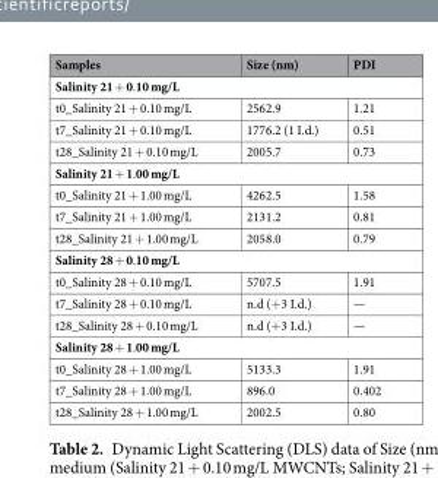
<table><thead><tr><td>Samples</td><td>Size (nm)</td><td>PDI</td></tr></thead><tbody><tr><td colspan="3">Salinity 21 + 0.10 mg/L</td></tr><tr><td>t0_Salinity 21 + 0.10 mg/L</td><td>2562.9</td><td>1.21</td></tr><tr><td>t7_Salinity 21 + 0.10 mg/L</td><td>1776.2 (1 I.d.)</td><td>0.51</td></tr><tr><td>t28_Salinity 21 + 0.10 mg/L</td><td>2005.7</td><td>0.73</td></tr><tr><td colspan="3">Salinity 21 + 1.00 mg/L</td></tr><tr><td>t0_Salinity 21 + 1.00 mg/L</td><td>4262.5</td><td>1.58</td></tr><tr><td>t7_Salinity 21 + 1.00 mg/L</td><td>2131.2</td><td>0.81</td></tr><tr><td>t28_Salinity 21 + 1.00 mg/L</td><td>2058.0</td><td>0.79</td></tr><tr><td colspan="3">Salinity 28 + 0.10 mg/L</td></tr><tr><td>t0_Salinity 28 + 0.10 mg/L</td><td>5707.5</td><td>1.91</td></tr><tr><td>t7_Salinity 28 + 0.10 mg/L</td><td>n.d (+3 I.d.)</td><td>—</td></tr><tr><td>t28_Salinity 28 + 0.10 mg/L</td><td>n.d (+3 I.d.)</td><td>—</td></tr><tr><td colspan="3">Salinity 28 + 1.00 mg/L</td></tr><tr><td>t0_Salinity 28 + 1.00 mg/L</td><td>5133.3</td><td>1.91</td></tr><tr><td>t7_Salinity 28 + 1.00 mg/L</td><td>896.0</td><td>0.402</td></tr><tr><td>t28_Salinity 28 + 1.00 mg/L</td><td>2002.5</td><td>0.80</td></tr></tbody></table>